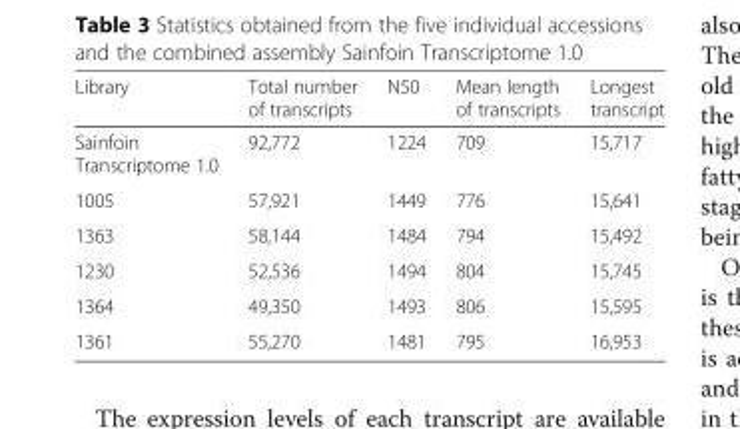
<table><thead><tr><td>Library</td><td>Total number of transcripts</td><td>N50</td><td>Mean length of transcripts</td><td>Longest transcript</td></tr></thead><tbody><tr><td>Sainfoin Transcriptome 1.0</td><td>92,772</td><td>1224</td><td>709</td><td>15,717</td></tr><tr><td>1005</td><td>57,921</td><td>1449</td><td>776</td><td>15,641</td></tr><tr><td>1363</td><td>58,144</td><td>1484</td><td>794</td><td>15,492</td></tr><tr><td>1230</td><td>52,536</td><td>1494</td><td>804</td><td>15,745</td></tr><tr><td>1364</td><td>49,350</td><td>1493</td><td>806</td><td>15,595</td></tr><tr><td>1361</td><td>55,270</td><td>1481</td><td>795</td><td>16,953</td></tr></tbody></table>